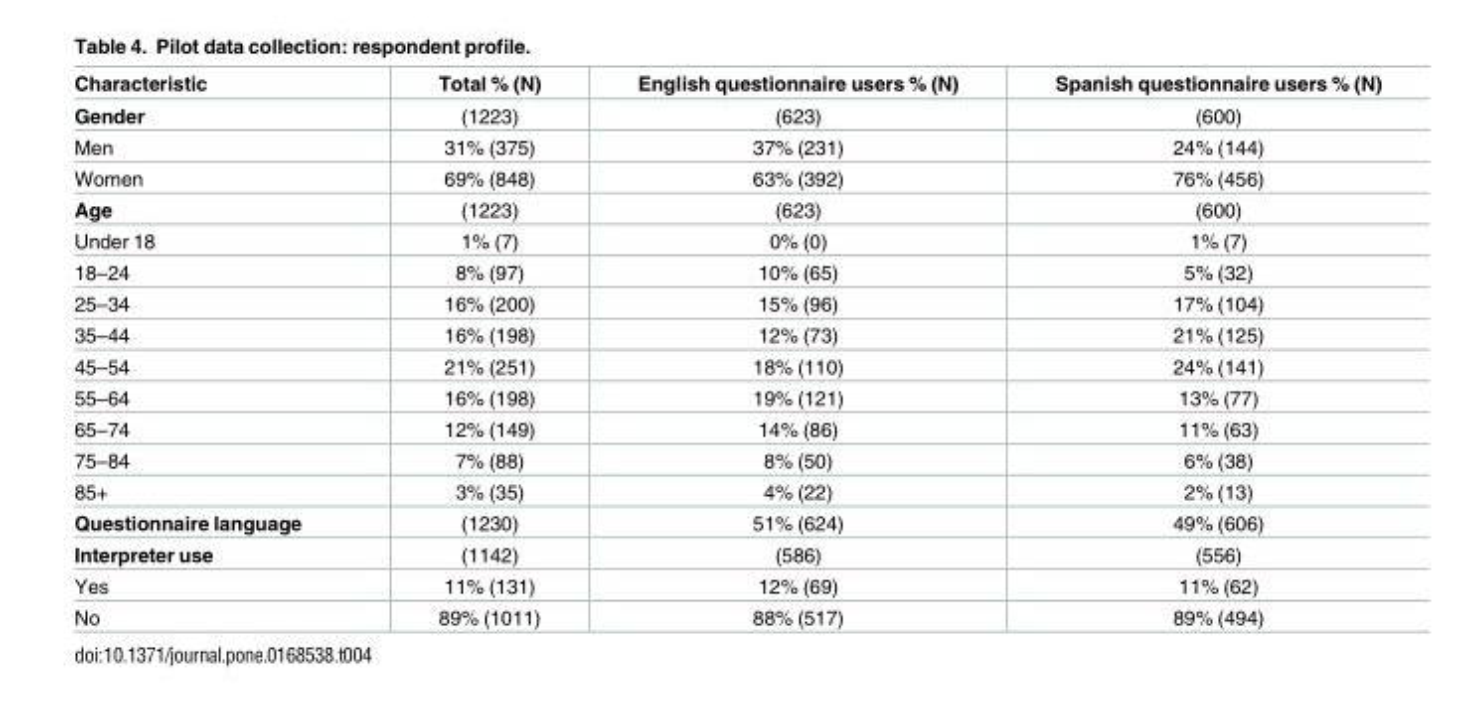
<table><thead><tr><td>Characteristic</td><td>Total % (N)</td><td>English questionnaire users % (N)</td><td>Spanish questionnaire users % (N)</td></tr></thead><tbody><tr><td>Gender</td><td>(1223)</td><td>(623)</td><td>(600)</td></tr><tr><td>Men</td><td>31% (375)</td><td>37% (231)</td><td>24% (144)</td></tr><tr><td>Women</td><td>69% (848)</td><td>63% (392)</td><td>76% (456)</td></tr><tr><td>Age</td><td>(1223)</td><td>(623)</td><td>(600)</td></tr><tr><td>Under 18</td><td>1% (7)</td><td>0% (0)</td><td>1% (7)</td></tr><tr><td>18–24</td><td>8% (97)</td><td>10% (65)</td><td>5% (32)</td></tr><tr><td>25–34</td><td>16% (200)</td><td>15% (96)</td><td>17% (104)</td></tr><tr><td>35–44</td><td>16% (198)</td><td>12% (73)</td><td>21% (125)</td></tr><tr><td>45–54</td><td>21% (251)</td><td>18% (110)</td><td>24% (141)</td></tr><tr><td>55–64</td><td>16% (198)</td><td>19% (121)</td><td>13% (77)</td></tr><tr><td>65–74</td><td>12% (149)</td><td>14% (86)</td><td>11% (63)</td></tr><tr><td>75–84</td><td>7% (88)</td><td>8% (50)</td><td>6% (38)</td></tr><tr><td>85+</td><td>3% (35)</td><td>4% (22)</td><td>2% (13)</td></tr><tr><td>Questionnaire language</td><td>(1230)</td><td>51% (624)</td><td>49% (606)</td></tr><tr><td>Interpreter use</td><td>(1142)</td><td>(586)</td><td>(556)</td></tr><tr><td>Yes</td><td>11% (131)</td><td>12% (69)</td><td>11% (62)</td></tr><tr><td>No</td><td>89% (1011)</td><td>88% (517)</td><td>89% (494)</td></tr></tbody></table>